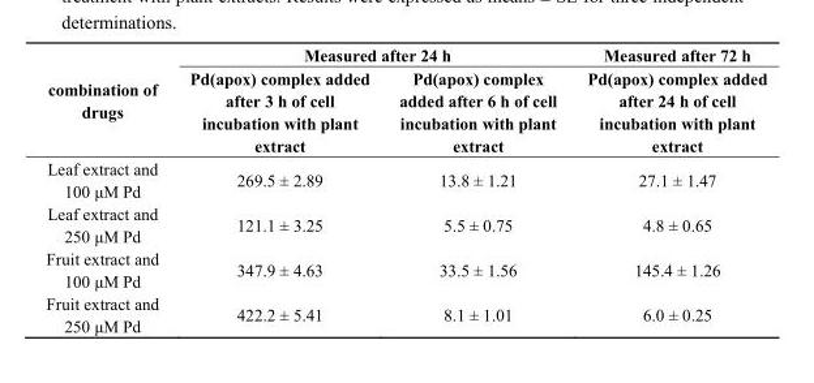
<table><thead><tr><td rowspan="2">combination of drugs</td><td colspan="2">Measured after 24 h</td><td rowspan="2">Measured after 72 h Pd(apox) complex added after 24 h of cell incubation with plant extract</td></tr><tr><td>Pd(apox) complex added after 3 h of cell incubation with plant extract</td><td>Pd(apox) complex added after 6 h of cell incubation with plant extract</td></tr></thead><tbody><tr><td>Leaf extract and 100 μM Pd</td><td>269.5 ± 2.89</td><td>13.8 ± 1.21</td><td>27.1 ± 1.47</td></tr><tr><td>Leaf extract and 250 μM Pd</td><td>121.1 ± 3.25</td><td>5.5 ± 0.75</td><td>4.8 ± 0.65</td></tr><tr><td>Fruit extract and 100 μM Pd</td><td>347.9 ± 4.63</td><td>33.5 ± 1.56</td><td>145.4 ± 1.26</td></tr><tr><td>Fruit extract and 250 μM Pd</td><td>422.2 ± 5.41</td><td>8.1 ± 1.01</td><td>6.0 ± 0.25</td></tr></tbody></table>